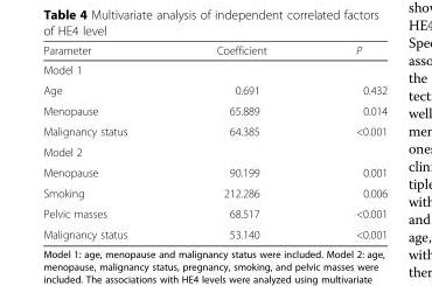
<table><thead><tr><td>Parameter</td><td>Coefficient</td><td>P</td></tr></thead><tbody><tr><td colspan="3">Model 1</td></tr><tr><td>Age</td><td>0.691</td><td>0.432</td></tr><tr><td>Menopause</td><td>65.889</td><td>0.014</td></tr><tr><td>Malignancy status</td><td>64.385</td><td>&lt;0.001</td></tr><tr><td colspan="3">Model 2</td></tr><tr><td>Menopause</td><td>90.199</td><td>0.001</td></tr><tr><td>Smoking</td><td>212.286</td><td>0.006</td></tr><tr><td>Pelvic masses</td><td>68.517</td><td>&lt;0.001</td></tr><tr><td>Malignancy status</td><td>53.140</td><td>&lt;0.001</td></tr></tbody></table>